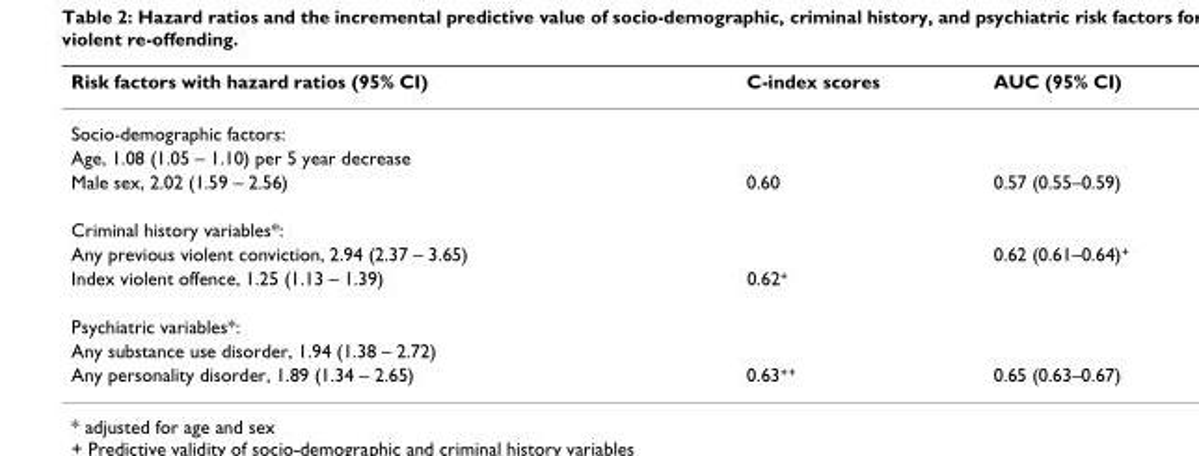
<table><thead><tr><td>Risk factors with hazard ratios (95% CI)</td><td>C-index scores</td><td>AUC (95% CI)</td></tr></thead><tbody><tr><td colspan="3">Socio-demographic factors:</td></tr><tr><td colspan="3">Age, 1.08 (1.05 – 1.10) per 5 year decrease</td></tr><tr><td>Male sex, 2.02 (1.59 – 2.56)</td><td>0.60</td><td>0.57 (0.55–0.59)</td></tr><tr><td colspan="3">Criminal history variables*:</td></tr><tr><td>Any previous violent conviction, 2.94 (2.37 – 3.65)</td><td></td><td>0.62 (0.61–0.64)<sup>+</sup></td></tr><tr><td>Index violent offence, 1.25 (1.13 – 1.39)</td><td>0.62<sup>+</sup></td><td></td></tr><tr><td colspan="3">Psychiatric variables*:</td></tr><tr><td colspan="3">Any substance use disorder, 1.94 (1.38 – 2.72)</td></tr><tr><td>Any personality disorder, 1.89 (1.34 – 2.65)</td><td>0.63<sup>++</sup></td><td>0.65 (0.63–0.67)</td></tr></tbody></table>